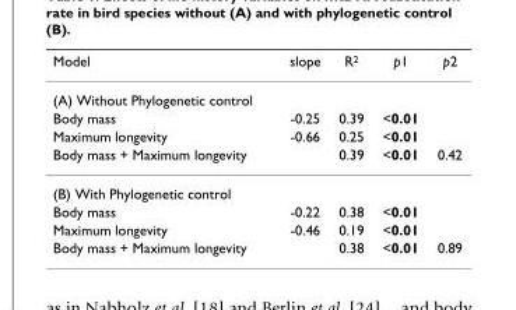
<table><thead><tr><td>Model</td><td>slope</td><td>R<sup>2</sup></td><td>p1</td><td>p2</td></tr></thead><tbody><tr><td colspan="5">(A) Without Phylogenetic control</td></tr><tr><td>Body mass</td><td>-0.25</td><td>0.39</td><td>&lt;0.01</td><td></td></tr><tr><td>Maximum longevity</td><td>-0.66</td><td>0.25</td><td>&lt;0.01</td><td></td></tr><tr><td>Body mass + Maximum longevity</td><td></td><td>0.39</td><td>&lt;0.01</td><td>0.42</td></tr><tr><td colspan="5">(B) With Phylogenetic control</td></tr><tr><td>Body mass</td><td>-0.22</td><td>0.38</td><td>&lt;0.01</td><td></td></tr><tr><td>Maximum longevity</td><td>-0.46</td><td>0.19</td><td>&lt;0.01</td><td></td></tr><tr><td>Body mass + Maximum longevity</td><td></td><td>0.38</td><td>&lt;0.01</td><td>0.89</td></tr></tbody></table>